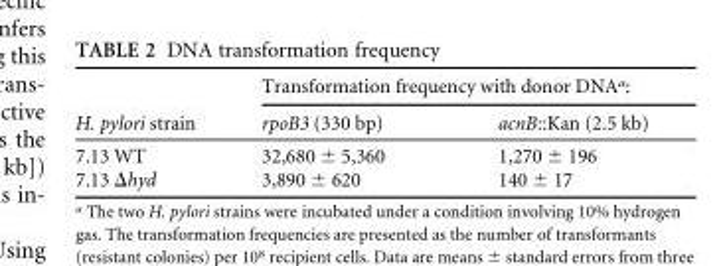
<table><thead><tr><td rowspan="2">H. pylori strain</td><td colspan="2">Transformation frequency with donor DNA<sup>a</sup>:</td></tr><tr><td>rpoB3 (330 bp)</td><td>acnB::Kan (2.5 kb)</td></tr></thead><tbody><tr><td>7.13 WT</td><td>32,680 ± 5,360</td><td>1,270 ± 196</td></tr><tr><td>7.13 Δhyd</td><td>3,890 ± 620</td><td>140 ± 17</td></tr></tbody></table>